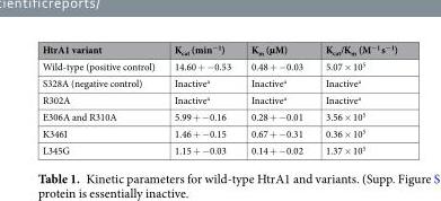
<table><thead><tr><td>HtrA1 variant</td><td>K<sub>cat</sub> (min<sup>−1</sup>)</td><td>K<sub>m</sub> (µM)</td><td>K<sub>cat</sub>/K<sub>m</sub> (M<sup>−1</sup> s<sup>−1</sup>)</td></tr></thead><tbody><tr><td>Wild-type (positive control)</td><td>14.60 + −0.53</td><td>0.48 + −0.03</td><td>5.07 × 10<sup>5</sup></td></tr><tr><td>S328A (negative control)</td><td>Inactive<sup>a</sup></td><td>Inactive<sup>a</sup></td><td>Inactive<sup>a</sup></td></tr><tr><td>R302A</td><td>Inactive<sup>a</sup></td><td>Inactive<sup>a</sup></td><td>Inactive<sup>a</sup></td></tr><tr><td>E306A and R310A</td><td>5.99 + −0.16</td><td>0.28 + −0.01</td><td>3.56 × 10<sup>5</sup></td></tr><tr><td>K346I</td><td>1.46 + −0.15</td><td>0.67 + −0.31</td><td>0.36 × 10<sup>5</sup></td></tr><tr><td>L345G</td><td>1.15 + −0.03</td><td>0.14 + −0.02</td><td>1.37 × 10<sup>5</sup></td></tr></tbody></table>